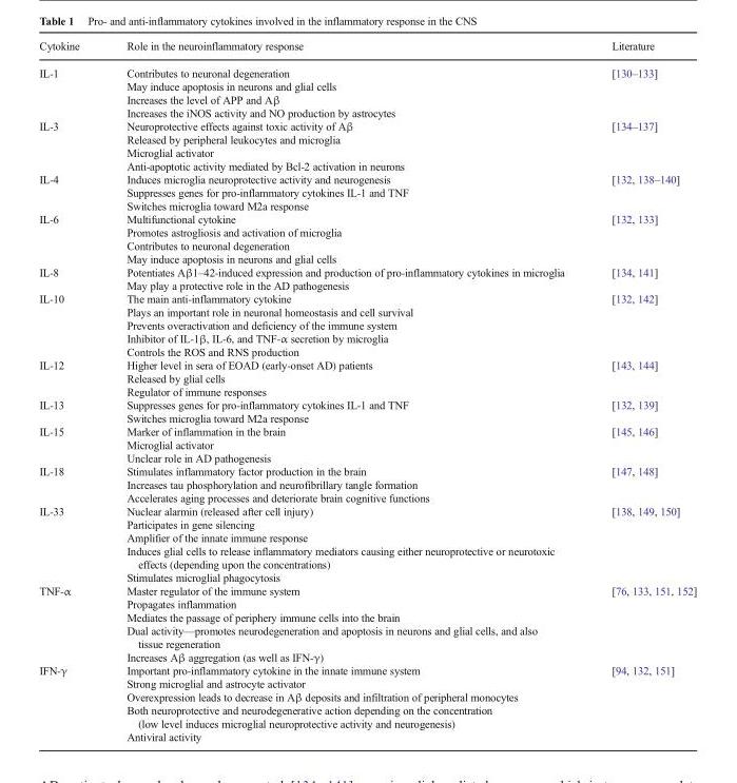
<table><thead><tr><td>Cytokine</td><td>Role in the neuroinflammatory response</td><td>Literature</td></tr></thead><tbody><tr><td>IL-1</td><td>Contributes to neuronal degeneration May induce apoptosis in neurons and glial cells Increases the level of APP and Aβ Increases the iNOS activity and NO production by astrocytes</td><td>[130–133]</td></tr><tr><td>IL-3</td><td>Neuroprotective effects against toxic activity of Aβ Released by peripheral leukocytes and microglia Microglial activator Anti-apoptotic activity mediated by Bcl-2 activation in neurons</td><td>[134–137]</td></tr><tr><td>IL-4</td><td>Induces microglia neuroprotective activity and neurogenesis Suppresses genes for pro-inflammatory cytokines IL-1 and TNF Switches microglia toward M2a response</td><td>[132, 138–140]</td></tr><tr><td>IL-6</td><td>Multifunctional cytokine Promotes astrogliosis and activation of microglia Contributes to neuronal degeneration May induce apoptosis in neurons and glial cells</td><td>[132, 133]</td></tr><tr><td>IL-8</td><td>Potentiates Aβ1–42-induced expression and production of pro-inflammatory cytokines in microglia May play a protective role in the AD pathogenesis</td><td>[134, 141]</td></tr><tr><td>IL-10</td><td>The main anti-inflammatory cytokine Plays an important role in neuronal homeostasis and cell survival Prevents overactivation and deficiency of the immune system Inhibitor of IL-1β, IL-6, and TNF-α secretion by microglia Controls the ROS and RNS production</td><td>[132, 142]</td></tr><tr><td>IL-12</td><td>Higher level in sera of EOAD (early-onset AD) patients Released by glial cells Regulator of immune responses</td><td>[143, 144]</td></tr><tr><td>IL-13</td><td>Suppresses genes for pro-inflammatory cytokines IL-1 and TNF Switches microglia toward M2a response</td><td>[132, 139]</td></tr><tr><td>IL-15</td><td>Marker of inflammation in the brain Microglial activator Unclear role in AD pathogenesis</td><td>[145, 146]</td></tr><tr><td>IL-18</td><td>Stimulates inflammatory factor production in the brain Increases tau phosphorylation and neurofibrillary tangle formation Accelerates aging processes and deteriorate brain cognitive functions</td><td>[147, 148]</td></tr><tr><td>IL-33</td><td>Nuclear alarmin (released after cell injury) Participates in gene silencing Amplifier of the innate immune response Induces glial cells to release inflammatory mediators causing either neuroprotective or neurotoxic effects (depending upon the concentrations) Stimulates microglial phagocytosis</td><td>[138, 149, 150]</td></tr><tr><td>TNF-α</td><td>Master regulator of the immune system Propagates inflammation Mediates the passage of periphery immune cells into the brain Dual activity—promotes neurodegeneration and apoptosis in neurons and glial cells, and also tissue regeneration Increases Aβ aggregation (as well as IFN-γ)</td><td>[76, 133, 151, 152]</td></tr><tr><td>IFN-γ</td><td>Important pro-inflammatory cytokine in the innate immune system Strong microglial and astrocyte activator Overexpression leads to decrease in Aβ deposits and infiltration of peripheral monocytes Both neuroprotective and neurodegenerative action depending on the concentration (low level induces microglial neuroprotective activity and neurogenesis) Antiviral activity</td><td>[94, 132, 151]</td></tr></tbody></table>